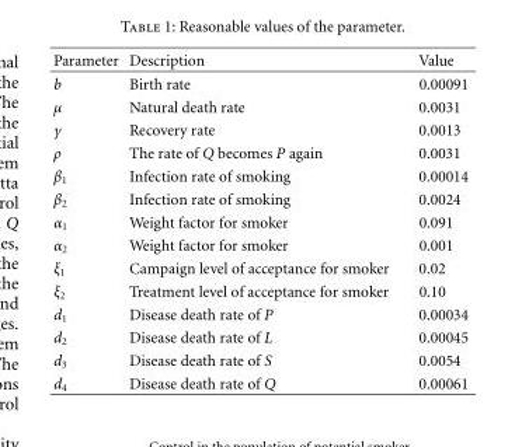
<table><thead><tr><td>Parameter</td><td>Description</td><td>Value</td></tr></thead><tbody><tr><td>b</td><td>Birth rate</td><td>0.00091</td></tr><tr><td>μ</td><td>Natural death rate</td><td>0.0031</td></tr><tr><td>γ</td><td>Recovery rate</td><td>0.0013</td></tr><tr><td>ρ</td><td>The rate of Q becomes P again</td><td>0.0031</td></tr><tr><td>β<sub>1</sub></td><td>Infection rate of smoking</td><td>0.00014</td></tr><tr><td>β<sub>2</sub></td><td>Infection rate of smoking</td><td>0.0024</td></tr><tr><td>α<sub>1</sub></td><td>Weight factor for smoker</td><td>0.091</td></tr><tr><td>α<sub>2</sub></td><td>Weight factor for smoker</td><td>0.001</td></tr><tr><td>ξ<sub>1</sub></td><td>Campaign level of acceptance for smoker</td><td>0.02</td></tr><tr><td>ξ<sub>2</sub></td><td>Treatment level of acceptance for smoker</td><td>0.10</td></tr><tr><td>d<sub>1</sub></td><td>Disease death rate of P</td><td>0.00034</td></tr><tr><td>d<sub>2</sub></td><td>Disease death rate of L</td><td>0.00045</td></tr><tr><td>d<sub>3</sub></td><td>Disease death rate of S</td><td>0.0054</td></tr><tr><td>d<sub>4</sub></td><td>Disease death rate of Q</td><td>0.00061</td></tr></tbody></table>